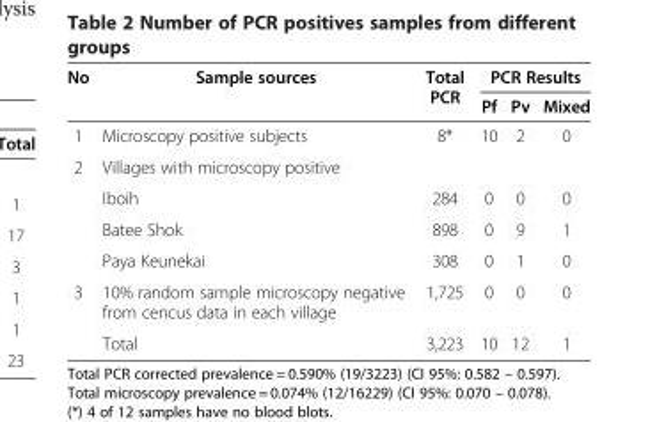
<table><thead><tr><td rowspan="2">No</td><td rowspan="2">Sample sources</td><td rowspan="2">Total PCR</td><td colspan="3">PCR Results</td></tr><tr><td>Pf</td><td>Pv</td><td>Mixed</td></tr></thead><tbody><tr><td>1</td><td>Microscopy positive subjects</td><td>8*</td><td>10</td><td>2</td><td>0</td></tr><tr><td rowspan="4">2</td><td>Villages with microscopy positive</td><td></td><td></td><td></td><td></td></tr><tr><td>Iboih</td><td>284</td><td>0</td><td>0</td><td>0</td></tr><tr><td>Batee Shok</td><td>898</td><td>0</td><td>9</td><td>1</td></tr><tr><td>Paya Keunekai</td><td>308</td><td>0</td><td>1</td><td>0</td></tr><tr><td rowspan="2">3</td><td>10% random sample microscopy negative from cencus data in each village</td><td>1,725</td><td>0</td><td>0</td><td>0</td></tr><tr><td>Total</td><td>3,223</td><td>10</td><td>12</td><td>1</td></tr></tbody></table>